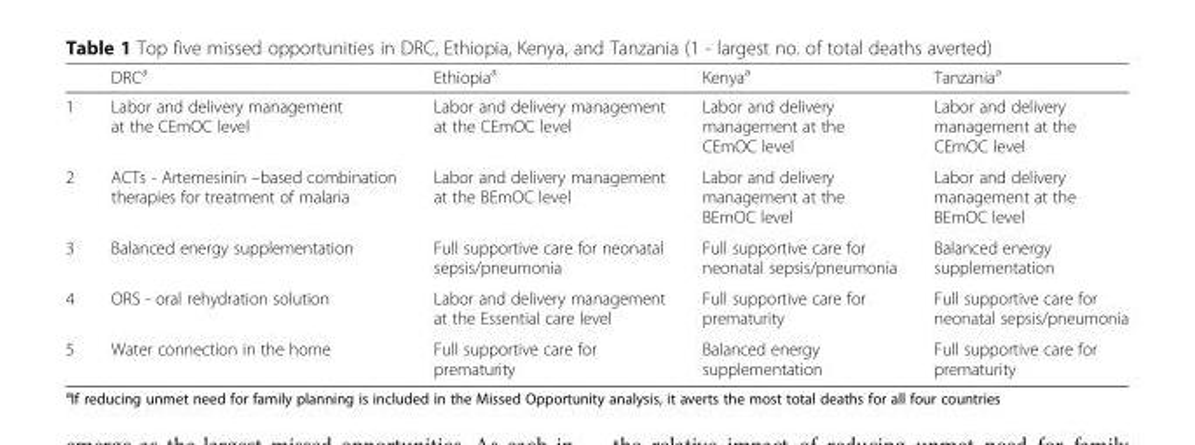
<table><thead><tr><td></td><td>DRC<sup>a</sup></td><td>Ethiopia<sup>a</sup></td><td>Kenya<sup>a</sup></td><td>Tanzania<sup>a</sup></td></tr></thead><tbody><tr><td>1</td><td>Labor and delivery management at the CEmOC level</td><td>Labor and delivery management at the CEmOC level</td><td>Labor and delivery management at the CEmOC level</td><td>Labor and delivery management at the CEmOC level</td></tr><tr><td>2</td><td>ACTs - Artemesinin –based combination therapies for treatment of malaria</td><td>Labor and delivery management at the BEmOC level</td><td>Labor and delivery management at the BEmOC level</td><td>Labor and delivery management at the BEmOC level</td></tr><tr><td>3</td><td>Balanced energy supplementation</td><td>Full supportive care for neonatal sepsis/pneumonia</td><td>Full supportive care for neonatal sepsis/pneumonia</td><td>Balanced energy supplementation</td></tr><tr><td>4</td><td>ORS - oral rehydration solution</td><td>Labor and delivery management at the Essential care level</td><td>Full supportive care for prematurity</td><td>Full supportive care for neonatal sepsis/pneumonia</td></tr><tr><td>5</td><td>Water connection in the home</td><td>Full supportive care for prematurity</td><td>Balanced energy supplementation</td><td>Full supportive care for prematurity</td></tr></tbody></table>